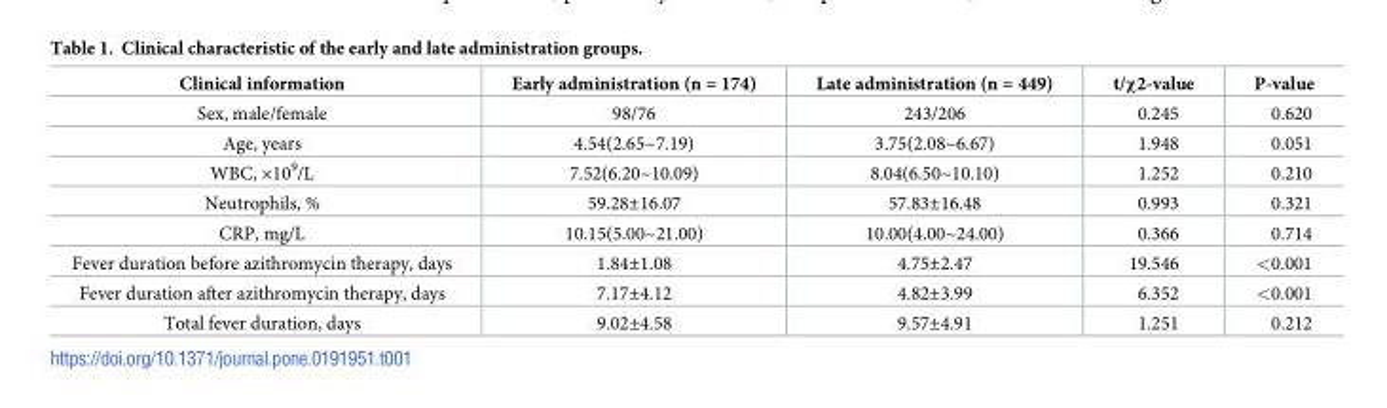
<table><thead><tr><td>Clinical information</td><td>Early administration (n = 174)</td><td>Late administration (n = 449)</td><td>t/χ2-value</td><td>P-value</td></tr></thead><tbody><tr><td>Sex, male/female</td><td>98/76</td><td>243/206</td><td>0.245</td><td>0.620</td></tr><tr><td>Age, years</td><td>4.54(2.65~7.19)</td><td>3.75(2.08~6.67)</td><td>1.948</td><td>0.051</td></tr><tr><td>WBC, ×10<sup>9</sup>/L</td><td>7.52(6.20~10.09)</td><td>8.04(6.50~10.10)</td><td>1.252</td><td>0.210</td></tr><tr><td>Neutrophils, %</td><td>59.28±16.07</td><td>57.83±16.48</td><td>0.993</td><td>0.321</td></tr><tr><td>CRP, mg/L</td><td>10.15(5.00~21.00)</td><td>10.00(4.00~24.00)</td><td>0.366</td><td>0.714</td></tr><tr><td>Fever duration before azithromycin therapy, days</td><td>1.84±1.08</td><td>4.75±2.47</td><td>19.546</td><td>&lt;0.001</td></tr><tr><td>Fever duration after azithromycin therapy, days</td><td>7.17±4.12</td><td>4.82±3.99</td><td>6.352</td><td>&lt;0.001</td></tr><tr><td>Total fever duration, days</td><td>9.02±4.58</td><td>9.57±4.91</td><td>1.251</td><td>0.212</td></tr></tbody></table>